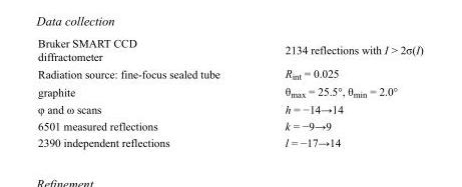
<table><tbody><tr><td>Bruker SMART CCD diffractometer</td><td>2134 reflections with I &gt; 2σ(I)</td></tr><tr><td>Radiation source: fine-focus sealed tube</td><td>R<sub>int</sub> = 0.025</td></tr><tr><td>graphite</td><td>θ<sub>max</sub> = 25.5°, θ<sub>min</sub> = 2.0°</td></tr><tr><td>φ and ω scans</td><td>h = −14→14</td></tr><tr><td>6501 measured reflections</td><td>k = −9→9</td></tr><tr><td>2390 independent reflections</td><td>l = −17→14</td></tr></tbody></table>